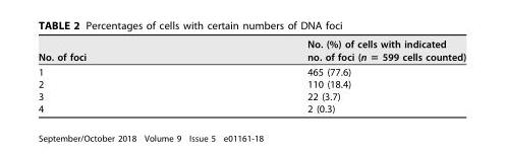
<table><thead><tr><td>No. of foci</td><td>No. (%) of cells with indicated no. of foci (n = 599 cells counted)</td></tr></thead><tbody><tr><td>1</td><td>465 (77.6)</td></tr><tr><td>2</td><td>110 (18.4)</td></tr><tr><td>3</td><td>22 (3.7)</td></tr><tr><td>4</td><td>2 (0.3)</td></tr></tbody></table>